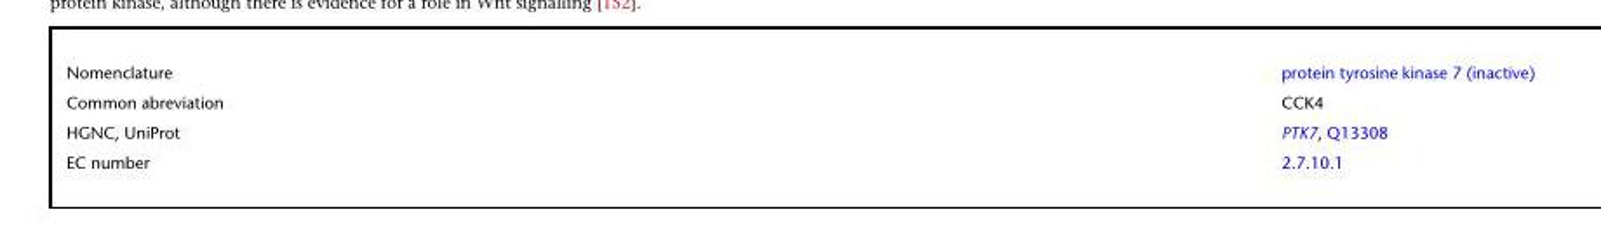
<table><tbody><tr><td>Nomenclature</td><td>protein tyrosine kinase 7 (inactive)</td></tr><tr><td>Common abreviation</td><td>CCK4</td></tr><tr><td>HGNC, UniProt</td><td>PTK7, Q13308</td></tr><tr><td>EC number</td><td>2.7.10.1</td></tr></tbody></table>